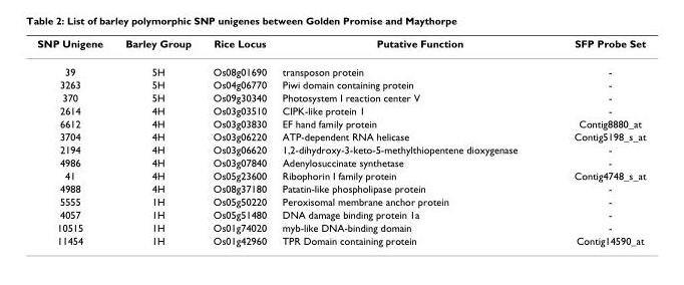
<table><thead><tr><td>SNP Unigene</td><td>Barley Group</td><td>Rice Locus</td><td>Putative Function</td><td>SFP Probe Set</td></tr></thead><tbody><tr><td>39</td><td>5H</td><td>Os08g01690</td><td>transposon protein</td><td>-</td></tr><tr><td>3263</td><td>5H</td><td>Os04g06770</td><td>Piwi domain containing protein</td><td>-</td></tr><tr><td>370</td><td>5H</td><td>Os09g30340</td><td>Photosystem I reaction center V</td><td>-</td></tr><tr><td>2614</td><td>4H</td><td>Os03g03510</td><td>CIPK-like protein 1</td><td>-</td></tr><tr><td>6612</td><td>4H</td><td>Os03g03830</td><td>EF hand family protein</td><td>Contig8880_at</td></tr><tr><td>3704</td><td>4H</td><td>Os03g06220</td><td>ATP-dependent RNA helicase</td><td>Contig5198_s_at</td></tr><tr><td>2194</td><td>4H</td><td>Os03g06620</td><td>1,2-dihydroxy-3-keto-5-methylthiopentene dioxygenase</td><td>-</td></tr><tr><td>4986</td><td>4H</td><td>Os03g07840</td><td>Adenylosuccinate synthetase</td><td>-</td></tr><tr><td>41</td><td>4H</td><td>Os05g23600</td><td>Ribophorin I family protein</td><td>Contig4748_s_at</td></tr><tr><td>4988</td><td>4H</td><td>Os08g37180</td><td>Patatin-like phospholipase protein</td><td>-</td></tr><tr><td>5555</td><td>1H</td><td>Os05g50220</td><td>Peroxisomal membrane anchor protein</td><td>-</td></tr><tr><td>4057</td><td>1H</td><td>Os05g51480</td><td>DNA damage binding protein 1a</td><td>-</td></tr><tr><td>10515</td><td>1H</td><td>Os01g74020</td><td>myb-like DNA-binding domain</td><td>-</td></tr><tr><td>11454</td><td>1H</td><td>Os01g42960</td><td>TPR Domain containing protein</td><td>Contig14590_at</td></tr></tbody></table>